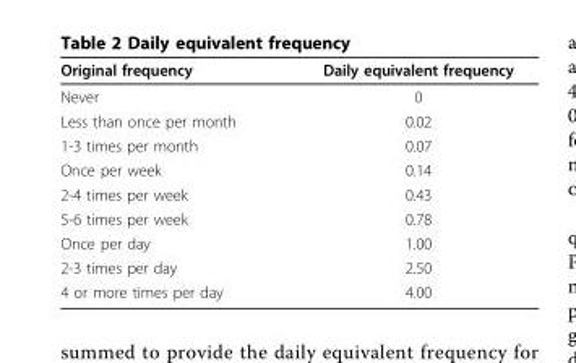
<table><thead><tr><td>Original frequency</td><td>Daily equivalent frequency</td></tr></thead><tbody><tr><td>Never</td><td>0</td></tr><tr><td>Less than once per month</td><td>0.02</td></tr><tr><td>1-3 times per month</td><td>0.07</td></tr><tr><td>Once per week</td><td>0.14</td></tr><tr><td>2-4 times per week</td><td>0.43</td></tr><tr><td>5-6 times per week</td><td>0.78</td></tr><tr><td>Once per day</td><td>1.00</td></tr><tr><td>2-3 times per day</td><td>2.50</td></tr><tr><td>4 or more times per day</td><td>4.00</td></tr></tbody></table>